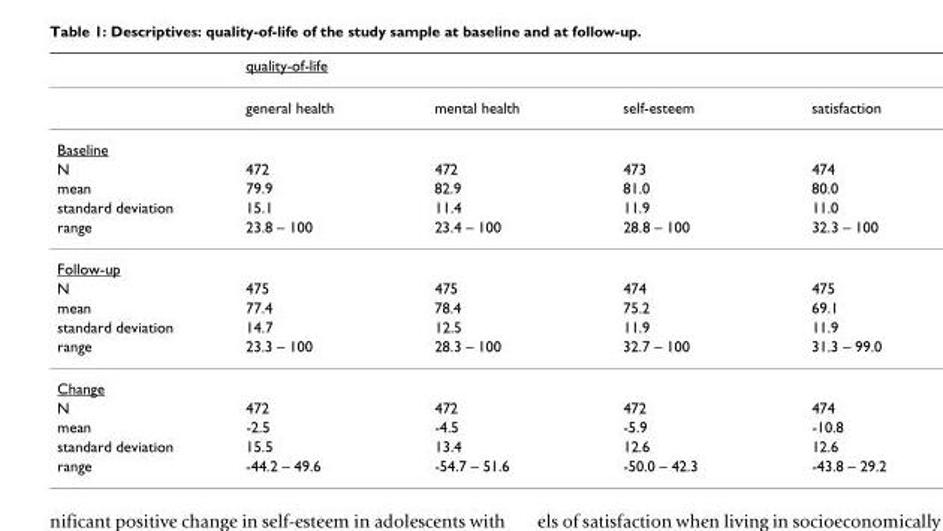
<table><thead><tr><td rowspan="2"></td><td colspan="4">quality-of-life</td></tr><tr><td>general health</td><td>mental health</td><td>self-esteem</td><td>satisfaction</td></tr></thead><tbody><tr><td colspan="5">Baseline</td></tr><tr><td>N</td><td>472</td><td>472</td><td>473</td><td>474</td></tr><tr><td>mean</td><td>79.9</td><td>82.9</td><td>81.0</td><td>80.0</td></tr><tr><td>standard deviation</td><td>15.1</td><td>11.4</td><td>11.9</td><td>11.0</td></tr><tr><td>range</td><td>23.8 – 100</td><td>23.4 – 100</td><td>28.8 – 100</td><td>32.3 – 100</td></tr><tr><td colspan="5">Follow-up</td></tr><tr><td>N</td><td>475</td><td>475</td><td>474</td><td>475</td></tr><tr><td>mean</td><td>77.4</td><td>78.4</td><td>75.2</td><td>69.1</td></tr><tr><td>standard deviation</td><td>14.7</td><td>12.5</td><td>11.9</td><td>11.9</td></tr><tr><td>range</td><td>23.3 – 100</td><td>28.3 – 100</td><td>32.7 – 100</td><td>31.3 – 99.0</td></tr><tr><td colspan="5">Change</td></tr><tr><td>N</td><td>472</td><td>472</td><td>472</td><td>474</td></tr><tr><td>mean</td><td>-2.5</td><td>-4.5</td><td>-5.9</td><td>-10.8</td></tr><tr><td>standard deviation</td><td>15.5</td><td>13.4</td><td>12.6</td><td>12.6</td></tr><tr><td>range</td><td>-44.2 – 49.6</td><td>-54.7 – 51.6</td><td>-50.0 – 42.3</td><td>-43.8 – 29.2</td></tr></tbody></table>